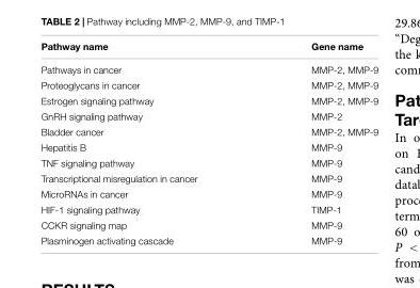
<table><thead><tr><td>Pathway name</td><td>Gene name</td></tr></thead><tbody><tr><td>Pathways in cancer</td><td>MMP-2, MMP-9</td></tr><tr><td>Proteoglycans in cancer</td><td>MMP-2, MMP-9</td></tr><tr><td>Estrogen signaling pathway</td><td>MMP-2, MMP-9</td></tr><tr><td>GnRH signaling pathway</td><td>MMP-2</td></tr><tr><td>Bladder cancer</td><td>MMP-2, MMP-9</td></tr><tr><td>Hepatitis B</td><td>MMP-9</td></tr><tr><td>TNF signaling pathway</td><td>MMP-9</td></tr><tr><td>Transcriptional misregulation in cancer</td><td>MMP-9</td></tr><tr><td>MicroRNAs in cancer</td><td>MMP-9</td></tr><tr><td>HIF-1 signaling pathway</td><td>TIMP-1</td></tr><tr><td>CCKR signaling map</td><td>MMP-9</td></tr><tr><td>Plasminogen activating cascade</td><td>MMP-9</td></tr></tbody></table>